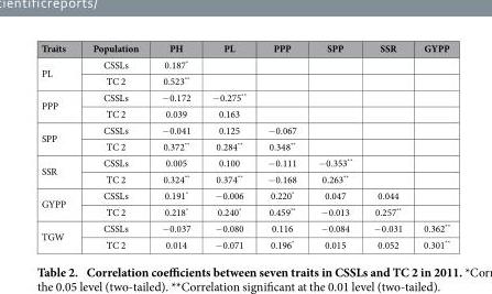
<table><thead><tr><td>Traits</td><td>Population</td><td>PH</td><td>PL</td><td>PPP</td><td>SPP</td><td>SSR</td><td>GYPP</td></tr></thead><tbody><tr><td rowspan="2">PL</td><td>CSSLs</td><td>0.187*</td><td></td><td></td><td></td><td></td><td></td></tr><tr><td>TC 2</td><td>0.523**</td><td></td><td></td><td></td><td></td><td></td></tr><tr><td rowspan="2">PPP</td><td>CSSLs</td><td>− 0.172</td><td>− 0.275**</td><td></td><td></td><td></td><td></td></tr><tr><td>TC 2</td><td>0.039</td><td>0.163</td><td></td><td></td><td></td><td></td></tr><tr><td rowspan="2">SPP</td><td>CSSLs</td><td>− 0.041</td><td>0.125</td><td>− 0.067</td><td></td><td></td><td></td></tr><tr><td>TC 2</td><td>0.372**</td><td>0.284**</td><td>0.348**</td><td></td><td></td><td></td></tr><tr><td rowspan="2">SSR</td><td>CSSLs</td><td>0.005</td><td>0.100</td><td>− 0.111</td><td>− 0.353**</td><td></td><td></td></tr><tr><td>TC 2</td><td>0.324**</td><td>0.374**</td><td>− 0.168</td><td>0.263**</td><td></td><td></td></tr><tr><td rowspan="2">GYPP</td><td>CSSLs</td><td>0.191*</td><td>− 0.006</td><td>0.220*</td><td>0.047</td><td>0.044</td><td></td></tr><tr><td>TC 2</td><td>0.218*</td><td>0.240*</td><td>0.459**</td><td>− 0.013</td><td>0.257**</td><td></td></tr><tr><td rowspan="2">TGW</td><td>CSSLs</td><td>− 0.037</td><td>− 0.080</td><td>0.116</td><td>− 0.084</td><td>− 0.031</td><td>0.362**</td></tr><tr><td>TC 2</td><td>0.014</td><td>− 0.071</td><td>0.196*</td><td>0.015</td><td>0.052</td><td>0.301**</td></tr></tbody></table>